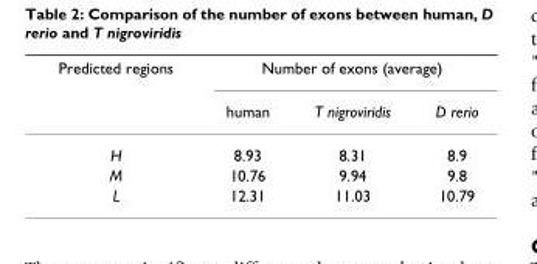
<table><thead><tr><td rowspan="2">Predicted regions</td><td colspan="3">Number of exons (average)</td></tr><tr><td>human</td><td>T nigroviridis</td><td>D rerio</td></tr></thead><tbody><tr><td>H</td><td>8.93</td><td>8.31</td><td>8.9</td></tr><tr><td>M</td><td>10.76</td><td>9.94</td><td>9.8</td></tr><tr><td>L</td><td>12.31</td><td>11.03</td><td>10.79</td></tr></tbody></table>